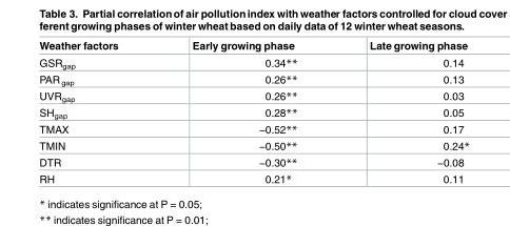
<table><thead><tr><td>Weather factors</td><td>Early growing phase</td><td>Late growing phase</td></tr></thead><tbody><tr><td>GSR<sub>gap</sub></td><td>0.34**</td><td>0.14</td></tr><tr><td>PAR<sub>gap</sub></td><td>0.26**</td><td>0.13</td></tr><tr><td>UVR<sub>gap</sub></td><td>0.26**</td><td>0.03</td></tr><tr><td>SH<sub>gap</sub></td><td>0.28**</td><td>0.05</td></tr><tr><td>TMAX</td><td>−0.52**</td><td>0.17</td></tr><tr><td>TMIN</td><td>−0.50**</td><td>0.24*</td></tr><tr><td>DTR</td><td>−0.30**</td><td>−0.08</td></tr><tr><td>RH</td><td>0.21*</td><td>0.11</td></tr></tbody></table>